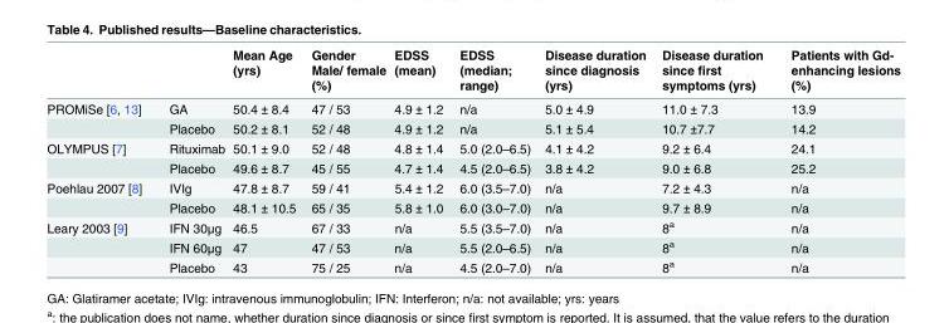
<table><thead><tr><td></td><td></td><td>Mean Age (yrs)</td><td>Gender Male/ female (%)</td><td>EDSS (mean)</td><td>EDSS (median; range)</td><td>Disease duration since diagnosis (yrs)</td><td>Disease duration since first symptoms (yrs)</td><td>Patients with Gd- enhancing lesions (%)</td></tr></thead><tbody><tr><td rowspan="2">PROMiSe [6, 13]</td><td>GA</td><td>50.4 ± 8.4</td><td>47 / 53</td><td>4.9 ± 1.2</td><td>n/a</td><td>5.0 ± 4.9</td><td>11.0 ± 7.3</td><td>13.9</td></tr><tr><td>Placebo</td><td>50.2 ± 8.1</td><td>52 / 48</td><td>4.9 ± 1.2</td><td>n/a</td><td>5.1 ± 5.4</td><td>10.7 ±7.7</td><td>14.2</td></tr><tr><td rowspan="2">OLYMPUS [7]</td><td>Rituximab</td><td>50.1 ± 9.0</td><td>52 / 48</td><td>4.8 ± 1.4</td><td>5.0 (2.0–6.5)</td><td>4.1 ± 4.2</td><td>9.2 ± 6.4</td><td>24.1</td></tr><tr><td>Placebo</td><td>49.6 ± 8.7</td><td>45 / 55</td><td>4.7 ± 1.4</td><td>4.5 (2.0–6.5)</td><td>3.8 ± 4.2</td><td>9.0 ± 6.8</td><td>25.2</td></tr><tr><td rowspan="2">Poehlau 2007 [8]</td><td>IVIg</td><td>47.8 ± 8.7</td><td>59 / 41</td><td>5.4 ± 1.2</td><td>6.0 (3.5–7.0)</td><td>n/a</td><td>7.2 ± 4.3</td><td>n/a</td></tr><tr><td>Placebo</td><td>48.1 ± 10.5</td><td>65 / 35</td><td>5.8 ± 1.0</td><td>6.0 (3.0–7.0)</td><td>n/a</td><td>9.7 ± 8.9</td><td>n/a</td></tr><tr><td rowspan="3">Leary 2003 [9]</td><td>IFN 30μg</td><td>46.5</td><td>67 / 33</td><td>n/a</td><td>5.5 (3.5–7.0)</td><td>n/a</td><td>8<sup>a</sup></td><td>n/a</td></tr><tr><td>IFN 60μg</td><td>47</td><td>47 / 53</td><td>n/a</td><td>5.5 (2.0–6.5)</td><td>n/a</td><td>8<sup>a</sup></td><td>n/a</td></tr><tr><td>Placebo</td><td>43</td><td>75 / 25</td><td>n/a</td><td>4.5 (2.0–7.0)</td><td>n/a</td><td>8<sup>a</sup></td><td>n/a</td></tr></tbody></table>